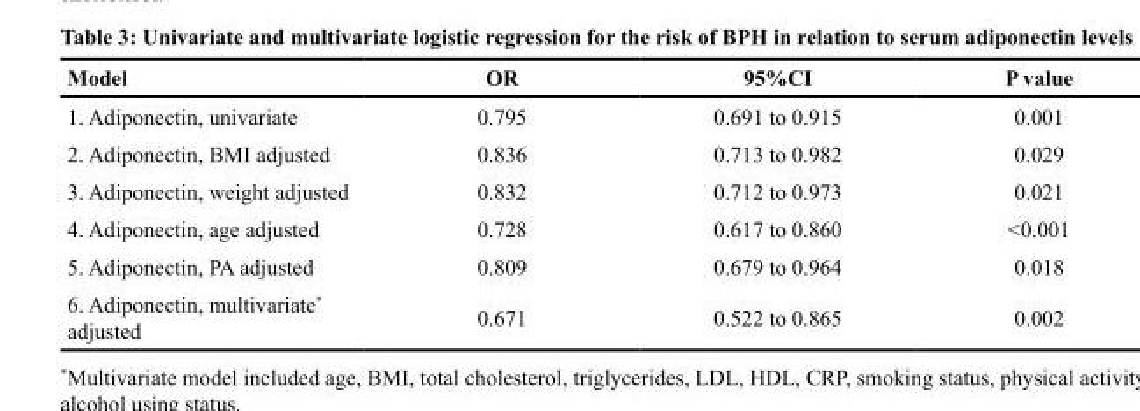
<table><thead><tr><td>Model</td><td>OR</td><td>95%CI</td><td>P value</td></tr></thead><tbody><tr><td>1. Adiponectin, univariate</td><td>0.795</td><td>0.691 to 0.915</td><td>0.001</td></tr><tr><td>2. Adiponectin, BMI adjusted</td><td>0.836</td><td>0.713 to 0.982</td><td>0.029</td></tr><tr><td>3. Adiponectin, weight adjusted</td><td>0.832</td><td>0.712 to 0.973</td><td>0.021</td></tr><tr><td>4. Adiponectin, age adjusted</td><td>0.728</td><td>0.617 to 0.860</td><td>&lt;0.001</td></tr><tr><td>5. Adiponectin, PA adjusted</td><td>0.809</td><td>0.679 to 0.964</td><td>0.018</td></tr><tr><td>6. Adiponectin, multivariate* adjusted</td><td>0.671</td><td>0.522 to 0.865</td><td>0.002</td></tr></tbody></table>